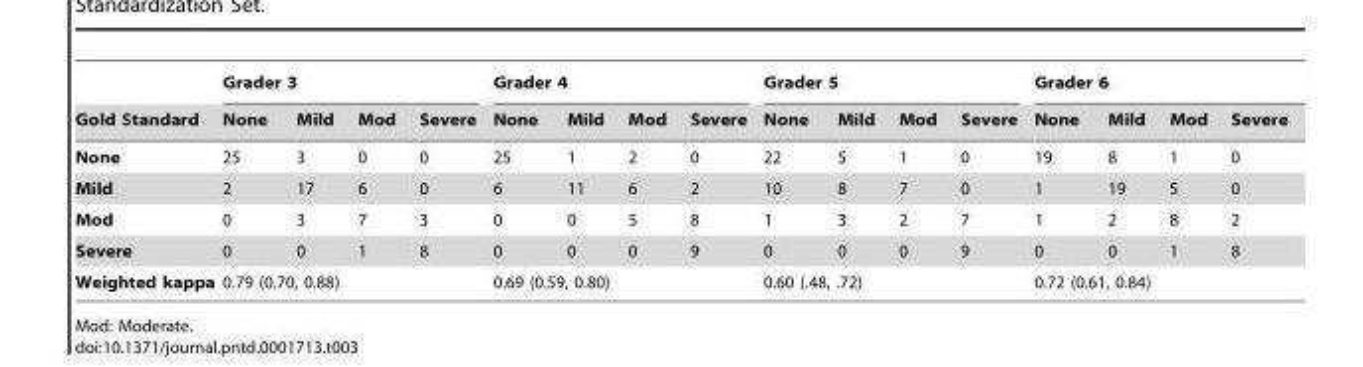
<table><thead><tr><td rowspan="2">Gold Standard</td><td colspan="4">Grader 3</td><td colspan="4">Grader 4</td><td colspan="4">Grader 5</td><td colspan="4">Grader 6</td></tr><tr><td>None</td><td>Mild</td><td>Mod</td><td>Severe</td><td>None</td><td>Mild</td><td>Mod</td><td>Severe</td><td>None</td><td>Mild</td><td>Mod</td><td>Severe</td><td>None</td><td>Mild</td><td>Mod</td><td>Severe</td></tr></thead><tbody><tr><td>None</td><td>25</td><td>3</td><td>0</td><td>0</td><td>25</td><td>1</td><td>2</td><td>0</td><td>22</td><td>5</td><td>1</td><td>0</td><td>19</td><td>8</td><td>1</td><td>0</td></tr><tr><td>Mild</td><td>2</td><td>17</td><td>6</td><td>0</td><td>6</td><td>11</td><td>6</td><td>2</td><td>10</td><td>8</td><td>7</td><td>0</td><td>1</td><td>19</td><td>5</td><td>0</td></tr><tr><td>Mod</td><td>0</td><td>3</td><td>7</td><td>3</td><td>0</td><td>0</td><td>5</td><td>8</td><td>1</td><td>3</td><td>2</td><td>7</td><td>1</td><td>2</td><td>8</td><td>2</td></tr><tr><td>Severe</td><td>0</td><td>0</td><td>1</td><td>8</td><td>0</td><td>0</td><td>0</td><td>9</td><td>0</td><td>0</td><td>0</td><td>9</td><td>0</td><td>0</td><td>1</td><td>8</td></tr><tr><td>Weighted kappa</td><td colspan="4">0.79 (0.70, 0.88)</td><td colspan="4">0.69 (0.59, 0.80)</td><td colspan="4">0.60 (.48, .72)</td><td colspan="4">0.72 (0.61, 0.84)</td></tr></tbody></table>